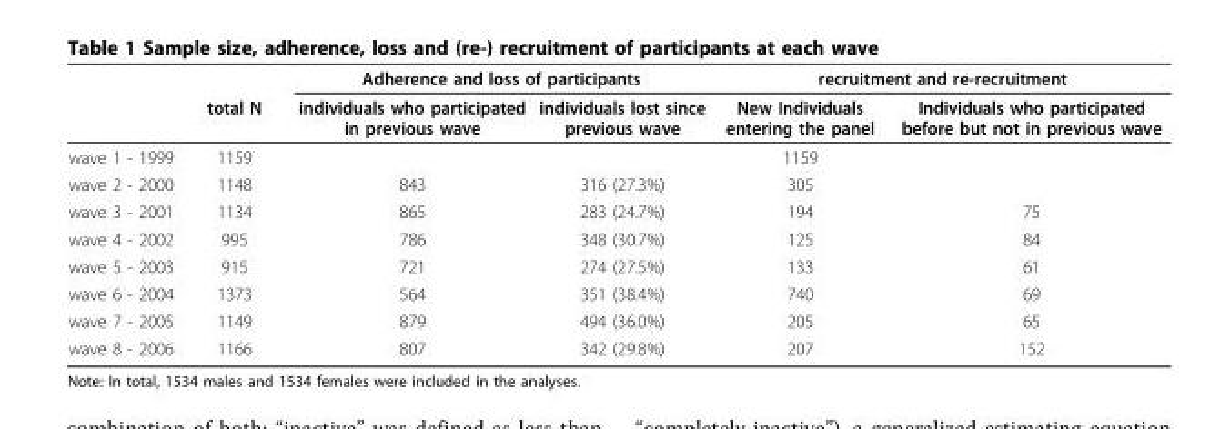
<table><thead><tr><td rowspan="2"></td><td rowspan="2">total N</td><td colspan="2">Adherence and loss of participants</td><td colspan="2">recruitment and re-recruitment</td></tr><tr><td>individuals who participated in previous wave</td><td>individuals lost since previous wave</td><td>New Individuals entering the panel</td><td>Individuals who participated before but not in previous wave</td></tr></thead><tbody><tr><td>wave 1 - 1999</td><td>1159</td><td></td><td></td><td>1159</td><td></td></tr><tr><td>wave 2 - 2000</td><td>1148</td><td>843</td><td>316 (27.3%)</td><td>305</td><td></td></tr><tr><td>wave 3 - 2001</td><td>1134</td><td>865</td><td>283 (24.7%)</td><td>194</td><td>75</td></tr><tr><td>wave 4 - 2002</td><td>995</td><td>786</td><td>348 (30.7%)</td><td>125</td><td>84</td></tr><tr><td>wave 5 - 2003</td><td>915</td><td>721</td><td>274 (27.5%)</td><td>133</td><td>61</td></tr><tr><td>wave 6 - 2004</td><td>1373</td><td>564</td><td>351 (38.4%)</td><td>740</td><td>69</td></tr><tr><td>wave 7 - 2005</td><td>1149</td><td>879</td><td>494 (36.0%)</td><td>205</td><td>65</td></tr><tr><td>wave 8 - 2006</td><td>1166</td><td>807</td><td>342 (29.8%)</td><td>207</td><td>152</td></tr></tbody></table>